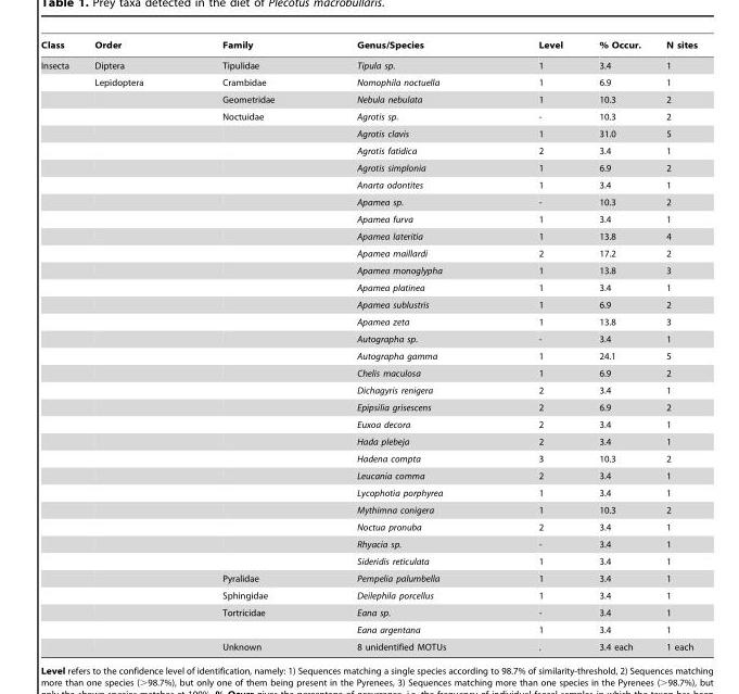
<table><thead><tr><td>Class</td><td>Order</td><td>Family</td><td>Genus/Species</td><td>Level</td><td>% Occur.</td><td>N sites</td></tr></thead><tbody><tr><td rowspan="35">Insecta</td><td>Diptera</td><td>Tipulidae</td><td>Tipula sp.</td><td>1</td><td>3.4</td><td>1</td></tr><tr><td>Lepidoptera</td><td>Crambidae</td><td>Nomophila noctuella</td><td>1</td><td>6.9</td><td>1</td></tr><tr><td></td><td>Geometridae</td><td>Nebula nebulata</td><td>1</td><td>10.3</td><td>2</td></tr><tr><td></td><td>Noctuidae</td><td>Agrotis sp.</td><td>-</td><td>10.3</td><td>2</td></tr><tr><td></td><td></td><td>Agrotis clavis</td><td>1</td><td>31.0</td><td>5</td></tr><tr><td></td><td></td><td>Agrotis fatidica</td><td>2</td><td>3.4</td><td>1</td></tr><tr><td></td><td></td><td>Agrotis simplonia</td><td>1</td><td>6.9</td><td>2</td></tr><tr><td></td><td></td><td>Anarta odontites</td><td>1</td><td>3.4</td><td>1</td></tr><tr><td></td><td></td><td>Apamea sp.</td><td>-</td><td>10.3</td><td>2</td></tr><tr><td></td><td></td><td>Apamea furva</td><td>1</td><td>3.4</td><td>1</td></tr><tr><td></td><td></td><td>Apamea lateritia</td><td>1</td><td>13.8</td><td>4</td></tr><tr><td></td><td></td><td>Apamea maillardi</td><td>2</td><td>17.2</td><td>2</td></tr><tr><td></td><td></td><td>Apamea monoglypha</td><td>1</td><td>13.8</td><td>3</td></tr><tr><td></td><td></td><td>Apamea platinea</td><td>1</td><td>3.4</td><td>1</td></tr><tr><td></td><td></td><td>Apamea sublustris</td><td>1</td><td>6.9</td><td>2</td></tr><tr><td></td><td></td><td>Apamea zeta</td><td>1</td><td>13.8</td><td>3</td></tr><tr><td></td><td></td><td>Autographa sp.</td><td>-</td><td>3.4</td><td>1</td></tr><tr><td></td><td></td><td>Autographa gamma</td><td>1</td><td>24.1</td><td>5</td></tr><tr><td></td><td></td><td>Chelis maculosa</td><td>1</td><td>6.9</td><td>2</td></tr><tr><td></td><td></td><td>Dichagyris renigera</td><td>2</td><td>3.4</td><td>1</td></tr><tr><td></td><td></td><td>Epipsilia grisescens</td><td>2</td><td>6.9</td><td>2</td></tr><tr><td></td><td></td><td>Euxoa decora</td><td>2</td><td>3.4</td><td>1</td></tr><tr><td></td><td></td><td>Hada plebeja</td><td>2</td><td>3.4</td><td>1</td></tr><tr><td></td><td></td><td>Hadena compta</td><td>3</td><td>10.3</td><td>2</td></tr><tr><td></td><td></td><td>Leucania comma</td><td>2</td><td>3.4</td><td>1</td></tr><tr><td></td><td></td><td>Lycophotia porphyrea</td><td>1</td><td>3.4</td><td>1</td></tr><tr><td></td><td></td><td>Mythimna conigera</td><td>1</td><td>10.3</td><td>2</td></tr><tr><td></td><td></td><td>Noctua pronuba</td><td>2</td><td>3.4</td><td>1</td></tr><tr><td></td><td></td><td>Rhyacia sp.</td><td>-</td><td>3.4</td><td>1</td></tr><tr><td></td><td></td><td>Sideridis reticulata</td><td>1</td><td>3.4</td><td>1</td></tr><tr><td></td><td>Pyralidae</td><td>Pempelia palumbella</td><td>1</td><td>3.4</td><td>1</td></tr><tr><td></td><td>Sphingidae</td><td>Deilephila porcellus</td><td>1</td><td>3.4</td><td>1</td></tr><tr><td></td><td>Tortricidae</td><td>Eana sp.</td><td>-</td><td>3.4</td><td>1</td></tr><tr><td></td><td></td><td>Eana argentana</td><td>1</td><td>3.4</td><td>1</td></tr><tr><td></td><td>Unknown</td><td>8 unidentified MOTUs</td><td>.</td><td>3.4 each</td><td>1 each</td></tr></tbody></table>